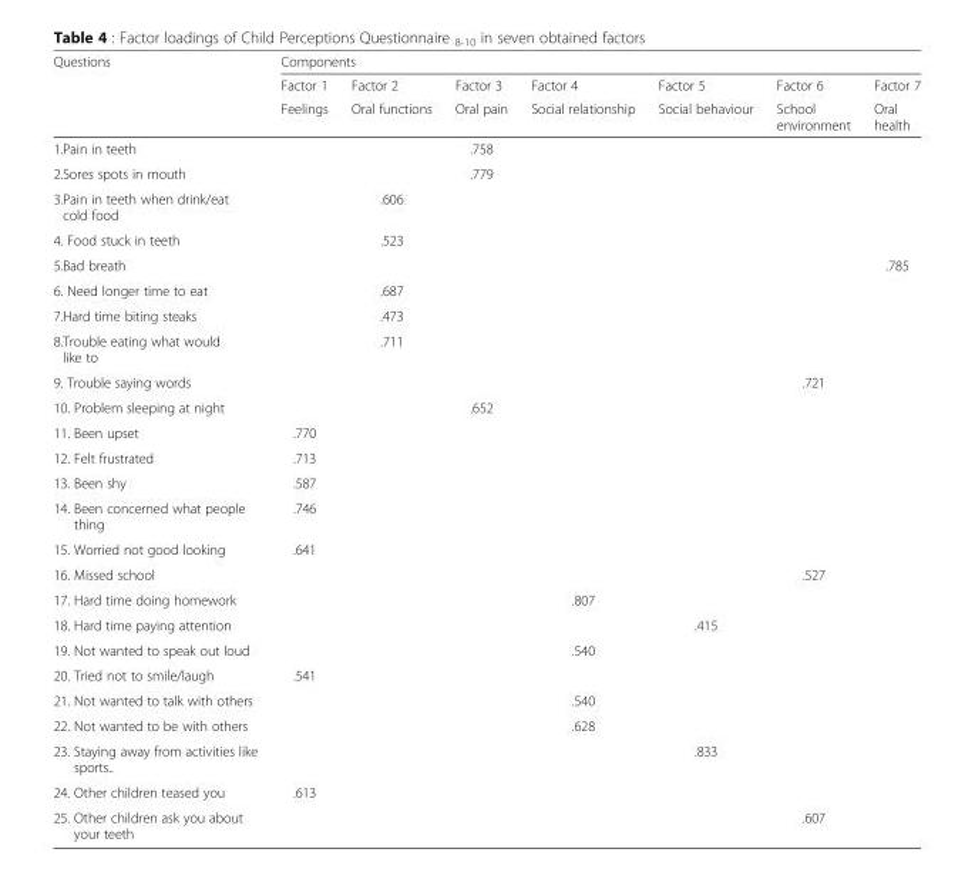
<table><thead><tr><td rowspan="3">Questions</td><td colspan="7">Components</td></tr><tr><td rowspan="2">Factor 1 Feelings</td><td rowspan="2">Factor 2 Oral functions</td><td rowspan="2">Factor 3 Oral pain</td><td rowspan="2">Factor 4 Social relationship</td><td rowspan="2">Factor 5 Social behaviour</td><td rowspan="2">Factor 6 School environment</td><td rowspan="2">Factor 7 Oral health</td></tr><tr></tr></thead><tbody><tr><td>1.Pain in teeth</td><td></td><td></td><td>.758</td><td></td><td></td><td></td><td></td></tr><tr><td>2.Sores spots in mouth</td><td></td><td></td><td>.779</td><td></td><td></td><td></td><td></td></tr><tr><td>3.Pain in teeth when drink/eat cold food</td><td></td><td>.606</td><td></td><td></td><td></td><td></td><td></td></tr><tr><td>4. Food stuck in teeth</td><td></td><td>.523</td><td></td><td></td><td></td><td></td><td></td></tr><tr><td>5.Bad breath</td><td></td><td></td><td></td><td></td><td></td><td></td><td>.785</td></tr><tr><td>6. Need longer time to eat</td><td></td><td>.687</td><td></td><td></td><td></td><td></td><td></td></tr><tr><td>7.Hard time biting steaks</td><td></td><td>.473</td><td></td><td></td><td></td><td></td><td></td></tr><tr><td>8.Trouble eating what would like to</td><td></td><td>.711</td><td></td><td></td><td></td><td></td><td></td></tr><tr><td>9. Trouble saying words</td><td></td><td></td><td></td><td></td><td></td><td>.721</td><td></td></tr><tr><td>10. Problem sleeping at night</td><td></td><td></td><td>.652</td><td></td><td></td><td></td><td></td></tr><tr><td>11. Been upset</td><td>.770</td><td></td><td></td><td></td><td></td><td></td><td></td></tr><tr><td>12. Felt frustrated</td><td>.713</td><td></td><td></td><td></td><td></td><td></td><td></td></tr><tr><td>13. Been shy</td><td>.587</td><td></td><td></td><td></td><td></td><td></td><td></td></tr><tr><td>14. Been concerned what people thing</td><td>.746</td><td></td><td></td><td></td><td></td><td></td><td></td></tr><tr><td>15. Worried not good looking</td><td>.641</td><td></td><td></td><td></td><td></td><td></td><td></td></tr><tr><td>16. Missed school</td><td></td><td></td><td></td><td></td><td></td><td>.527</td><td></td></tr><tr><td>17. Hard time doing homework</td><td></td><td></td><td></td><td>.807</td><td></td><td></td><td></td></tr><tr><td>18. Hard time paying attention</td><td></td><td></td><td></td><td></td><td>.415</td><td></td><td></td></tr><tr><td>19. Not wanted to speak out loud</td><td></td><td></td><td></td><td>.540</td><td></td><td></td><td></td></tr><tr><td>20. Tried not to smile/laugh</td><td>.541</td><td></td><td></td><td></td><td></td><td></td><td></td></tr><tr><td>21. Not wanted to talk with others</td><td></td><td></td><td></td><td>.540</td><td></td><td></td><td></td></tr><tr><td>22. Not wanted to be with others</td><td></td><td></td><td></td><td>.628</td><td></td><td></td><td></td></tr><tr><td>23. Staying away from activities like sports..</td><td></td><td></td><td></td><td></td><td>.833</td><td></td><td></td></tr><tr><td>24. Other children teased you</td><td>.613</td><td></td><td></td><td></td><td></td><td></td><td></td></tr><tr><td>25. Other children ask you about your teeth</td><td></td><td></td><td></td><td></td><td></td><td>.607</td><td></td></tr></tbody></table>